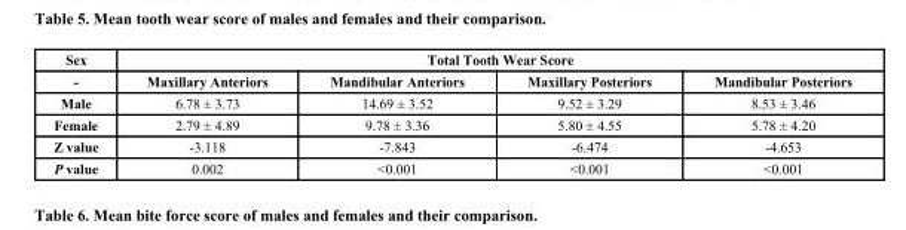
<table><thead><tr><td rowspan="2">Sex -</td><td colspan="4">Total Tooth Wear Score</td></tr><tr><td>Maxillary Anteriors</td><td>Mandibular Anteriors</td><td>Maxillary Posteriors</td><td>Mandibular Posteriors</td></tr></thead><tbody><tr><td>Male</td><td>6.78 ± 3.73</td><td>14.69 ± 3.52</td><td>9.52 ± 3.29</td><td>8.53 ± 3.46</td></tr><tr><td>Female</td><td>2.79 ± 4.89</td><td>9.78 ± 3.36</td><td>5.80 ± 4.55</td><td>5.78 ± 4.20</td></tr><tr><td>Z value</td><td>-3.118</td><td>-7.843</td><td>-6.474</td><td>-4.653</td></tr><tr><td>P value</td><td>0.002</td><td>&lt;0.001</td><td>&lt;0.001</td><td>&lt;0.001</td></tr></tbody></table>